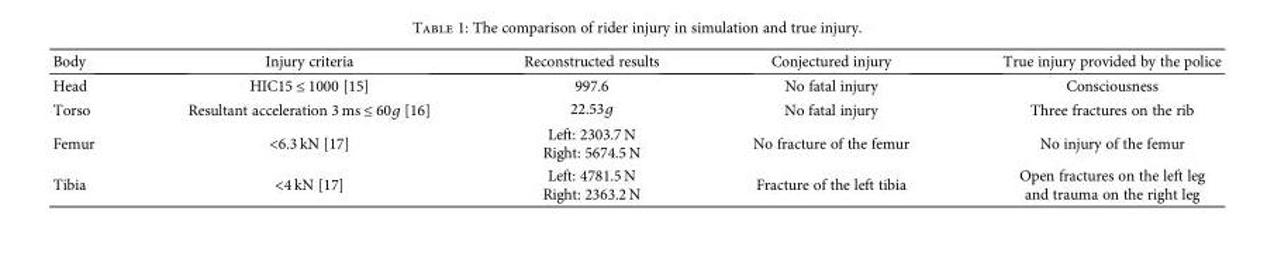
<table><thead><tr><td>Body</td><td>Injury criteria</td><td>Reconstructed results</td><td>Conjectured injury</td><td>True injury provided by the police</td></tr></thead><tbody><tr><td>Head</td><td>HIC15 ≤ 1000 [15]</td><td>997.6</td><td>No fatal injury</td><td>Consciousness</td></tr><tr><td>Torso</td><td>Resultant acceleration 3 ms ≤ 60g [16]</td><td>22.53g</td><td>No fatal injury</td><td>Three fractures on the rib</td></tr><tr><td>Femur</td><td>&lt;6.3 kN [17]</td><td>Left: 2303.7 N Right: 5674.5 N</td><td>No fracture of the femur</td><td>No injury of the femur</td></tr><tr><td>Tibia</td><td>&lt;4 kN [17]</td><td>Left: 4781.5 N Right: 2363.2 N</td><td>Fracture of the left tibia</td><td>Open fractures on the left leg and trauma on the right leg</td></tr></tbody></table>